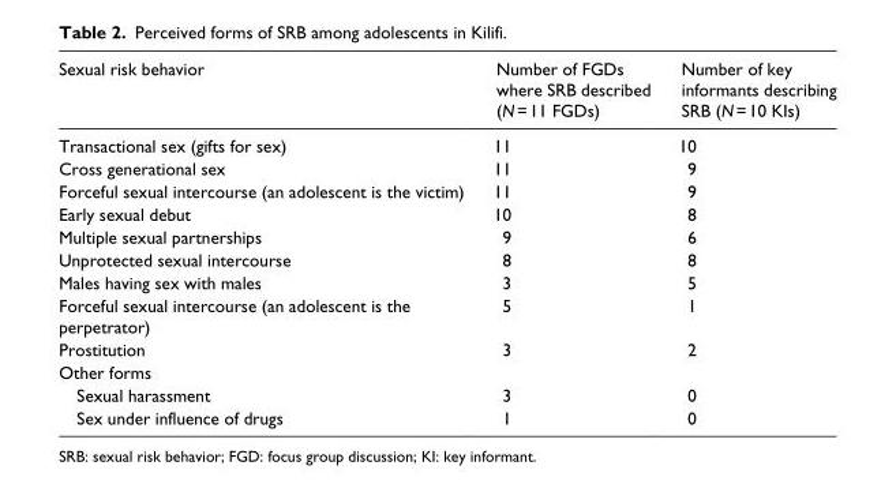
<table><thead><tr><td>Sexual risk behavior</td><td>Number of FGDs where SRB described (N = 11 FGDs)</td><td>Number of key informants describing SRB (N = 10 KIs)</td></tr></thead><tbody><tr><td>Transactional sex (gifts for sex)</td><td>11</td><td>10</td></tr><tr><td>Cross generational sex</td><td>11</td><td>9</td></tr><tr><td>Forceful sexual intercourse (an adolescent is the victim)</td><td>11</td><td>9</td></tr><tr><td>Early sexual debut</td><td>10</td><td>8</td></tr><tr><td>Multiple sexual partnerships</td><td>9</td><td>6</td></tr><tr><td>Unprotected sexual intercourse</td><td>8</td><td>8</td></tr><tr><td>Males having sex with males</td><td>3</td><td>5</td></tr><tr><td>Forceful sexual intercourse (an adolescent is the perpetrator)</td><td>5</td><td>1</td></tr><tr><td>Prostitution</td><td>3</td><td>2</td></tr><tr><td colspan="3">Other forms</td></tr><tr><td>Sexual harassment</td><td>3</td><td>0</td></tr><tr><td>Sex under influence of drugs</td><td>1</td><td>0</td></tr></tbody></table>